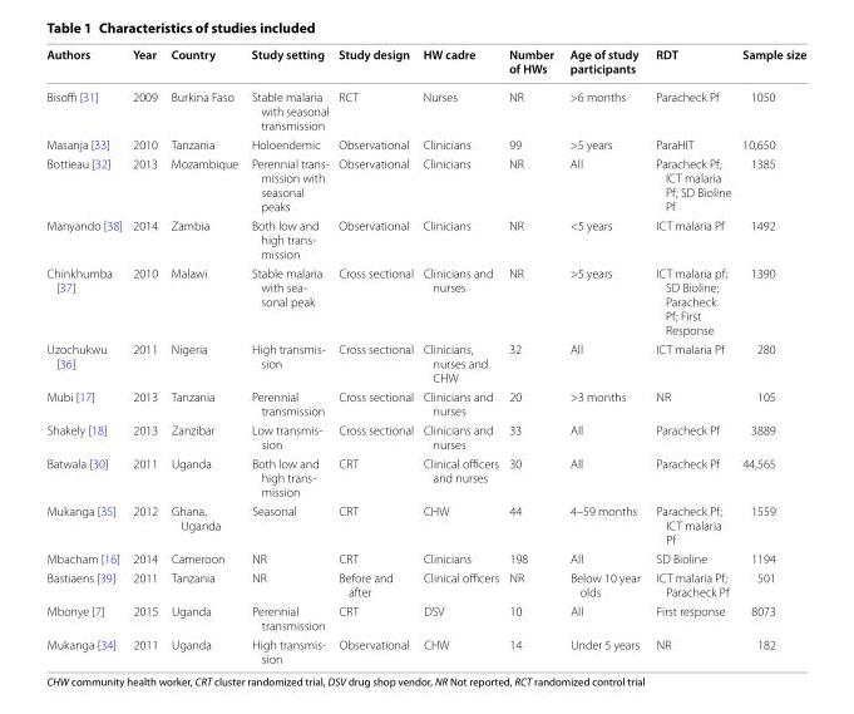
<table><thead><tr><td>Authors</td><td>Year</td><td>Country</td><td>Study setting</td><td>Study design</td><td>HW cadre</td><td>Number of HWs</td><td>Age of study participants</td><td>RDT</td><td>Sample size</td></tr></thead><tbody><tr><td>Bisoffi [31]</td><td>2009</td><td>Burkina Faso</td><td>Stable malaria with seasonal transmission</td><td>RCT</td><td>Nurses</td><td>NR</td><td>&gt;6 months</td><td>Paracheck Pf</td><td>1050</td></tr><tr><td>Masanja [33]</td><td>2010</td><td>Tanzania</td><td>Holoendemic</td><td>Observational</td><td>Clinicians</td><td>99</td><td>&gt;5 years</td><td>ParaHIT</td><td>10,650</td></tr><tr><td>Bottieau [32]</td><td>2013</td><td>Mozambique</td><td>Perennial trans- mission with seasonal peaks</td><td>Observational</td><td>Clinicians</td><td>NR</td><td>All</td><td>Paracheck Pf; ICT malaria Pf; SD Bioline Pf</td><td>1385</td></tr><tr><td>Manyando [38]</td><td>2014</td><td>Zambia</td><td>Both low and high trans- mission</td><td>Observational</td><td>Clinicians</td><td>NR</td><td>&lt;5 years</td><td>ICT malaria Pf</td><td>1492</td></tr><tr><td>Chinkhumba [37]</td><td>2010</td><td>Malawi</td><td>Stable malaria with sea- sonal peak</td><td>Cross sectional</td><td>Clinicians and nurses</td><td>NR</td><td>&gt;5 years</td><td>ICT malaria pf; SD Bioline; Paracheck Pf; First Response</td><td>1390</td></tr><tr><td>Uzochukwu [36]</td><td>2011</td><td>Nigeria</td><td>High transmis- sion</td><td>Cross sectional</td><td>Clinicians, nurses and CHW</td><td>32</td><td>All</td><td>ICT malaria Pf</td><td>280</td></tr><tr><td>Mubi [17]</td><td>2013</td><td>Tanzania</td><td>Perennial transmission</td><td>Cross sectional</td><td>Clinicians and nurses</td><td>20</td><td>&gt;3 months</td><td>NR</td><td>105</td></tr><tr><td>Shakely [18]</td><td>2013</td><td>Zanzibar</td><td>Low transmis- sion</td><td>Cross sectional</td><td>Clinicians and nurses</td><td>33</td><td>All</td><td>Paracheck Pf</td><td>3889</td></tr><tr><td>Batwala [30]</td><td>2011</td><td>Uganda</td><td>Both low and high trans- mission</td><td>CRT</td><td>Clinical officers and nurses</td><td>30</td><td>All</td><td>Paracheck Pf</td><td>44,565</td></tr><tr><td>Mukanga [35]</td><td>2012</td><td>Ghana, Uganda</td><td>Seasonal</td><td>CRT</td><td>CHW</td><td>44</td><td>4–59 months</td><td>Paracheck Pf; ICT malaria Pf</td><td>1559</td></tr><tr><td>Mbacham [16]</td><td>2014</td><td>Cameroon</td><td>NR</td><td>CRT</td><td>Clinicians</td><td>198</td><td>All</td><td>SD Bioline</td><td>1194</td></tr><tr><td>Bastiaens [39]</td><td>2011</td><td>Tanzania</td><td>NR</td><td>Before and after</td><td>Clinical officers</td><td>NR</td><td>Below 10 year olds</td><td>ICT malaria Pf; Paracheck Pf</td><td>501</td></tr><tr><td>Mbonye [7]</td><td>2015</td><td>Uganda</td><td>Perennial transmission</td><td>CRT</td><td>DSV</td><td>10</td><td>All</td><td>First response</td><td>8073</td></tr><tr><td>Mukanga [34]</td><td>2011</td><td>Uganda</td><td>High transmis- sion</td><td>Observational</td><td>CHW</td><td>14</td><td>Under 5 years</td><td>NR</td><td>182</td></tr></tbody></table>